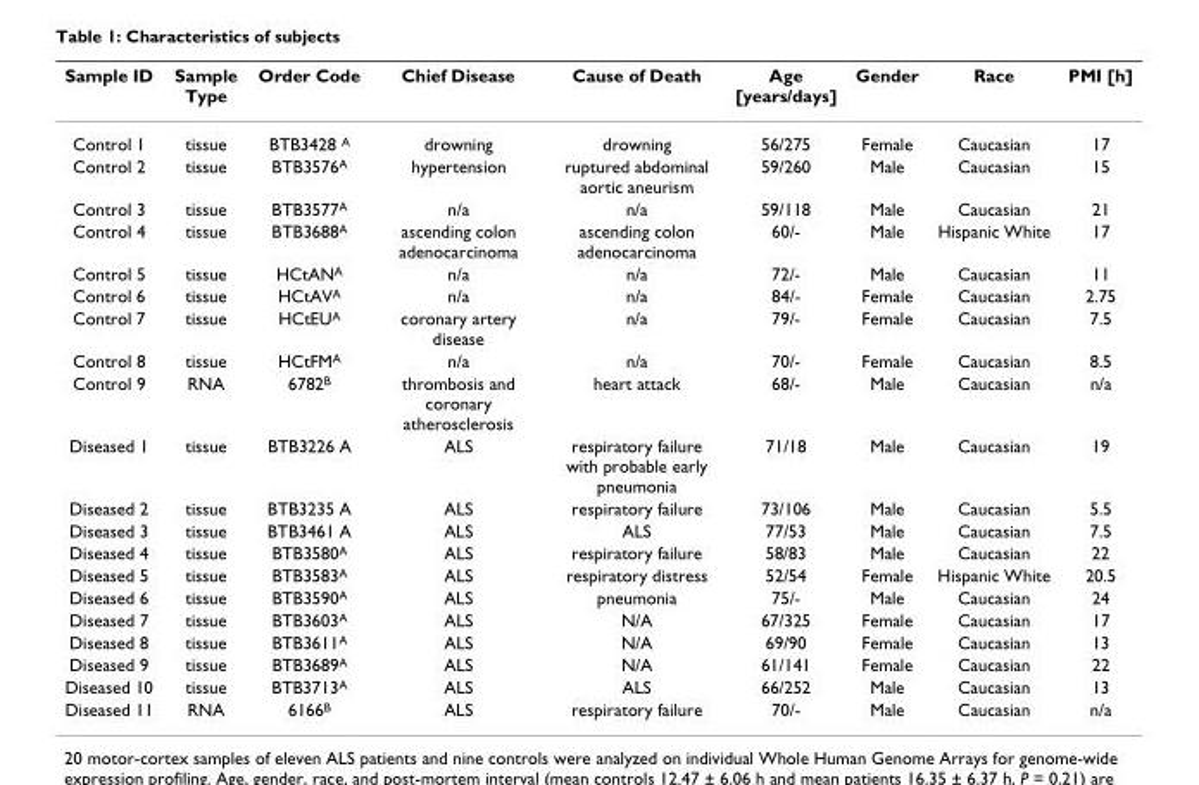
<table><thead><tr><td>Sample ID</td><td>Sample Type</td><td>Order Code</td><td>Chief Disease</td><td>Cause of Death</td><td>Age [years/days]</td><td>Gender</td><td>Race</td><td>PMI [h]</td></tr></thead><tbody><tr><td>Control 1</td><td>tissue</td><td>BTB3428 <sup>A</sup></td><td>drowning</td><td>drowning</td><td>56/275</td><td>Female</td><td>Caucasian</td><td>17</td></tr><tr><td>Control 2</td><td>tissue</td><td>BTB3576<sup>A</sup></td><td>hypertension</td><td>ruptured abdominal aortic aneurism</td><td>59/260</td><td>Male</td><td>Caucasian</td><td>15</td></tr><tr><td>Control 3</td><td>tissue</td><td>BTB3577<sup>A</sup></td><td>n/a</td><td>n/a</td><td>59/118</td><td>Male</td><td>Caucasian</td><td>21</td></tr><tr><td>Control 4</td><td>tissue</td><td>BTB3688<sup>A</sup></td><td>ascending colon adenocarcinoma</td><td>ascending colon adenocarcinoma</td><td>60/-</td><td>Male</td><td>Hispanic White</td><td>17</td></tr><tr><td>Control 5</td><td>tissue</td><td>HCtAN<sup>A</sup></td><td>n/a</td><td>n/a</td><td>72/-</td><td>Male</td><td>Caucasian</td><td>11</td></tr><tr><td>Control 6</td><td>tissue</td><td>HCtAV<sup>A</sup></td><td>n/a</td><td>n/a</td><td>84/-</td><td>Female</td><td>Caucasian</td><td>2.75</td></tr><tr><td>Control 7</td><td>tissue</td><td>HCtEU<sup>A</sup></td><td>coronary artery disease</td><td>n/a</td><td>79/-</td><td>Female</td><td>Caucasian</td><td>7.5</td></tr><tr><td>Control 8</td><td>tissue</td><td>HCtFM<sup>A</sup></td><td>n/a</td><td>n/a</td><td>70/-</td><td>Female</td><td>Caucasian</td><td>8.5</td></tr><tr><td>Control 9</td><td>RNA</td><td>6782<sup>B</sup></td><td>thrombosis and coronary atherosclerosis</td><td>heart attack</td><td>68/-</td><td>Male</td><td>Caucasian</td><td>n/a</td></tr><tr><td>Diseased 1</td><td>tissue</td><td>BTB3226 A</td><td>ALS</td><td>respiratory failure with probable early pneumonia</td><td>71/18</td><td>Male</td><td>Caucasian</td><td>19</td></tr><tr><td>Diseased 2</td><td>tissue</td><td>BTB3235 A</td><td>ALS</td><td>respiratory failure</td><td>73/106</td><td>Male</td><td>Caucasian</td><td>5.5</td></tr><tr><td>Diseased 3</td><td>tissue</td><td>BTB3461 A</td><td>ALS</td><td>ALS</td><td>77/53</td><td>Male</td><td>Caucasian</td><td>7.5</td></tr><tr><td>Diseased 4</td><td>tissue</td><td>BTB3580<sup>A</sup></td><td>ALS</td><td>respiratory failure</td><td>58/83</td><td>Male</td><td>Caucasian</td><td>22</td></tr><tr><td>Diseased 5</td><td>tissue</td><td>BTB3583<sup>A</sup></td><td>ALS</td><td>respiratory distress</td><td>52/54</td><td>Female</td><td>Hispanic White</td><td>20.5</td></tr><tr><td>Diseased 6</td><td>tissue</td><td>BTB3590<sup>A</sup></td><td>ALS</td><td>pneumonia</td><td>75/-</td><td>Male</td><td>Caucasian</td><td>24</td></tr><tr><td>Diseased 7</td><td>tissue</td><td>BTB3603<sup>A</sup></td><td>ALS</td><td>N/A</td><td>67/325</td><td>Female</td><td>Caucasian</td><td>17</td></tr><tr><td>Diseased 8</td><td>tissue</td><td>BTB3611<sup>A</sup></td><td>ALS</td><td>N/A</td><td>69/90</td><td>Female</td><td>Caucasian</td><td>13</td></tr><tr><td>Diseased 9</td><td>tissue</td><td>BTB3689<sup>A</sup></td><td>ALS</td><td>N/A</td><td>61/141</td><td>Female</td><td>Caucasian</td><td>22</td></tr><tr><td>Diseased 10</td><td>tissue</td><td>BTB3713<sup>A</sup></td><td>ALS</td><td>ALS</td><td>66/252</td><td>Male</td><td>Caucasian</td><td>13</td></tr><tr><td>Diseased 11</td><td>RNA</td><td>6166<sup>B</sup></td><td>ALS</td><td>respiratory failure</td><td>70/-</td><td>Male</td><td>Caucasian</td><td>n/a</td></tr></tbody></table>